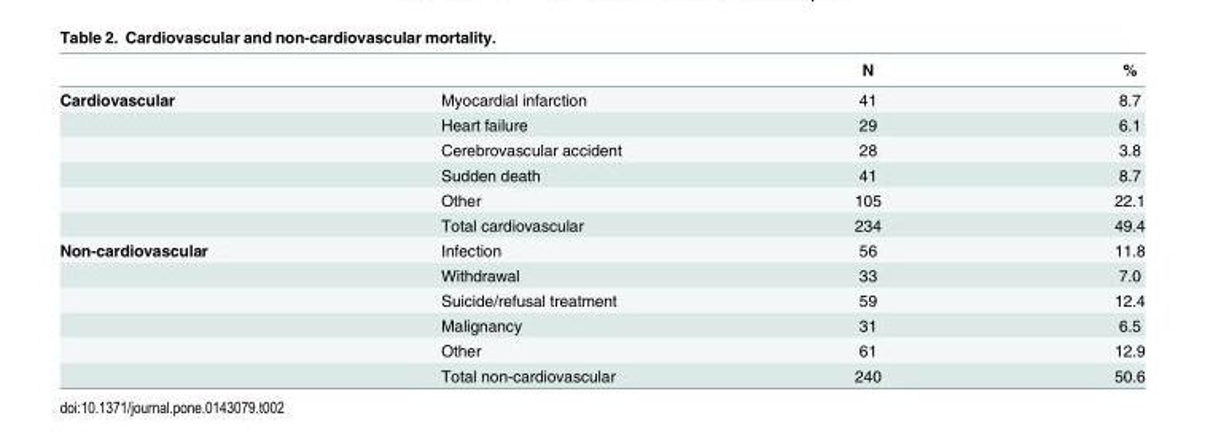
<table><thead><tr><td></td><td></td><td>N</td><td>%</td></tr></thead><tbody><tr><td rowspan="6">Cardiovascular</td><td>Myocardial infarction</td><td>41</td><td>8.7</td></tr><tr><td>Heart failure</td><td>29</td><td>6.1</td></tr><tr><td>Cerebrovascular accident</td><td>28</td><td>3.8</td></tr><tr><td>Sudden death</td><td>41</td><td>8.7</td></tr><tr><td>Other</td><td>105</td><td>22.1</td></tr><tr><td>Total cardiovascular</td><td>234</td><td>49.4</td></tr><tr><td rowspan="6">Non-cardiovascular</td><td>Infection</td><td>56</td><td>11.8</td></tr><tr><td>Withdrawal</td><td>33</td><td>7.0</td></tr><tr><td>Suicide/refusal treatment</td><td>59</td><td>12.4</td></tr><tr><td>Malignancy</td><td>31</td><td>6.5</td></tr><tr><td>Other</td><td>61</td><td>12.9</td></tr><tr><td>Total non-cardiovascular</td><td>240</td><td>50.6</td></tr></tbody></table>